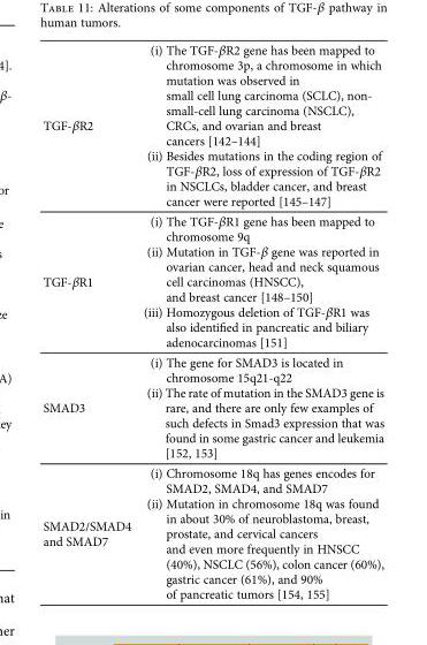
<table><tbody><tr><td>TGF-βR2</td><td>(i) The TGF-βR2 gene has been mapped to chromosome 3p, a chromosome in which mutation was observed in small cell lung carcinoma (SCLC), non- small-cell lung carcinoma (NSCLC), CRCs, and ovarian and breast cancers [142–144] (ii) Besides mutations in the coding region of TGF-βR2, loss of expression of TGF-βR2 in NSCLCs, bladder cancer, and breast cancer were reported [145–147]</td></tr><tr><td>TGF-βR1</td><td>(i) The TGF-βR1 gene has been mapped to chromosome 9q (ii) Mutation in TGF-β gene was reported in ovarian cancer, head and neck squamous cell carcinomas (HNSCC), and breast cancer [148–150] (iii) Homozygous deletion of TGF-βR1 was also identified in pancreatic and biliary adenocarcinomas [151]</td></tr><tr><td>SMAD3</td><td>(i) The gene for SMAD3 is located in chromosome 15q21-q22 (ii) The rate of mutation in the SMAD3 gene is rare, and there are only few examples of such defects in Smad3 expression that was found in some gastric cancer and leukemia [152, 153]</td></tr><tr><td>SMAD2/SMAD4 and SMAD7</td><td>(i) Chromosome 18q has genes encodes for SMAD2, SMAD4, and SMAD7 (ii) Mutation in chromosome 18q was found in about 30% of neuroblastoma, breast, prostate, and cervical cancers and even more frequently in HNSCC (40%), NSCLC (56%), colon cancer (60%), gastric cancer (61%), and 90% of pancreatic tumors [154, 155]</td></tr></tbody></table>